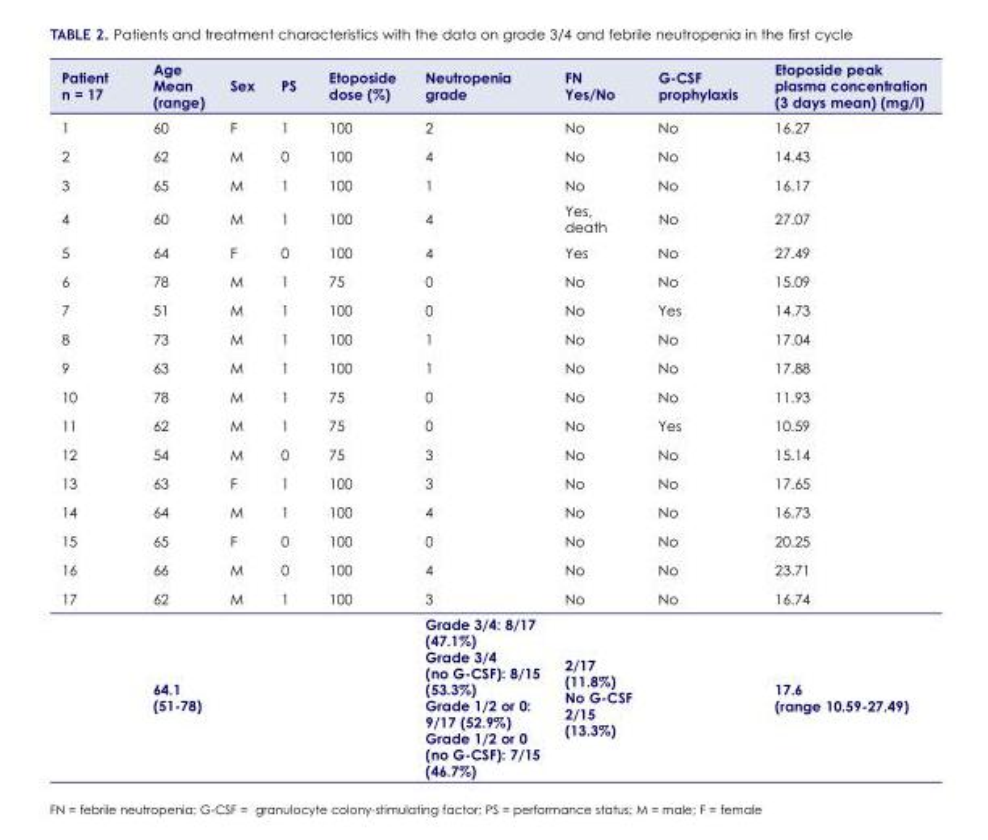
<table><thead><tr><td>Patient n = 17</td><td>Age Mean (range)</td><td>Sex</td><td>PS</td><td>Etoposide dose (%)</td><td>Neutropenia grade</td><td>FN Yes/No</td><td>G-CSF prophylaxis</td><td>Etoposide peak plasma concentration (3 days mean) (mg/l)</td></tr></thead><tbody><tr><td>1</td><td>60</td><td>F</td><td>1</td><td>100</td><td>2</td><td>No</td><td>No</td><td>16.27</td></tr><tr><td>2</td><td>62</td><td>M</td><td>0</td><td>100</td><td>4</td><td>No</td><td>No</td><td>14.43</td></tr><tr><td>3</td><td>65</td><td>M</td><td>1</td><td>100</td><td>1</td><td>No</td><td>No</td><td>16.17</td></tr><tr><td>4</td><td>60</td><td>M</td><td>1</td><td>100</td><td>4</td><td>Yes, death</td><td>No</td><td>27.07</td></tr><tr><td>5</td><td>64</td><td>F</td><td>0</td><td>100</td><td>4</td><td>Yes</td><td>No</td><td>27.49</td></tr><tr><td>6</td><td>78</td><td>M</td><td>1</td><td>75</td><td>0</td><td>No</td><td>No</td><td>15.09</td></tr><tr><td>7</td><td>51</td><td>M</td><td>1</td><td>100</td><td>0</td><td>No</td><td>Yes</td><td>14.73</td></tr><tr><td>8</td><td>73</td><td>M</td><td>1</td><td>100</td><td>1</td><td>No</td><td>No</td><td>17.04</td></tr><tr><td>9</td><td>63</td><td>M</td><td>1</td><td>100</td><td>1</td><td>No</td><td>No</td><td>17.88</td></tr><tr><td>10</td><td>78</td><td>M</td><td>1</td><td>75</td><td>0</td><td>No</td><td>No</td><td>11.93</td></tr><tr><td>11</td><td>62</td><td>M</td><td>1</td><td>75</td><td>0</td><td>No</td><td>Yes</td><td>10.59</td></tr><tr><td>12</td><td>54</td><td>M</td><td>0</td><td>75</td><td>3</td><td>No</td><td>No</td><td>15.14</td></tr><tr><td>13</td><td>63</td><td>F</td><td>1</td><td>100</td><td>3</td><td>No</td><td>No</td><td>17.65</td></tr><tr><td>14</td><td>64</td><td>M</td><td>1</td><td>100</td><td>4</td><td>No</td><td>No</td><td>16.73</td></tr><tr><td>15</td><td>65</td><td>F</td><td>0</td><td>100</td><td>0</td><td>No</td><td>No</td><td>20.25</td></tr><tr><td>16</td><td>66</td><td>M</td><td>0</td><td>100</td><td>4</td><td>No</td><td>No</td><td>23.71</td></tr><tr><td rowspan="2">17</td><td>62</td><td>M</td><td>1</td><td>100</td><td>3</td><td>No</td><td>No</td><td>16.74</td></tr><tr><td>64.1 (51-78)</td><td></td><td></td><td></td><td>Grade 3/4: 8/17 (47.1%) Grade 3/4 (no G-CSF): 8/15 (53.3%) Grade 1/2 or 0: 9/17 (52.9%) Grade 1/2 or 0 (no G-CSF): 7/15 (46.7%)</td><td>2/17 (11.8%) No G-CSF 2/15 (13.3%)</td><td></td><td>17.6 (range 10.59-27.49)</td></tr></tbody></table>